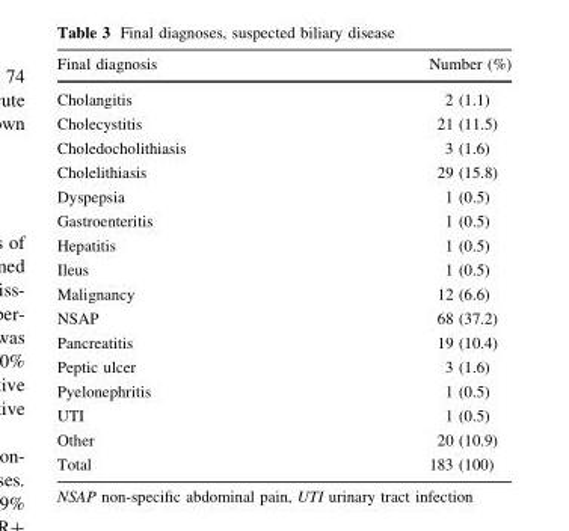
<table><thead><tr><td>Final diagnosis</td><td>Number (%)</td></tr></thead><tbody><tr><td>Cholangitis</td><td>2 (1.1)</td></tr><tr><td>Cholecystitis</td><td>21 (11.5)</td></tr><tr><td>Choledocholithiasis</td><td>3 (1.6)</td></tr><tr><td>Cholelithiasis</td><td>29 (15.8)</td></tr><tr><td>Dyspepsia</td><td>1 (0.5)</td></tr><tr><td>Gastroenteritis</td><td>1 (0.5)</td></tr><tr><td>Hepatitis</td><td>1 (0.5)</td></tr><tr><td>Ileus</td><td>1 (0.5)</td></tr><tr><td>Malignancy</td><td>12 (6.6)</td></tr><tr><td>NSAP</td><td>68 (37.2)</td></tr><tr><td>Pancreatitis</td><td>19 (10.4)</td></tr><tr><td>Peptic ulcer</td><td>3 (1.6)</td></tr><tr><td>Pyelonephritis</td><td>1 (0.5)</td></tr><tr><td>UTI</td><td>1 (0.5)</td></tr><tr><td>Other</td><td>20 (10.9)</td></tr><tr><td>Total</td><td>183 (100)</td></tr></tbody></table>